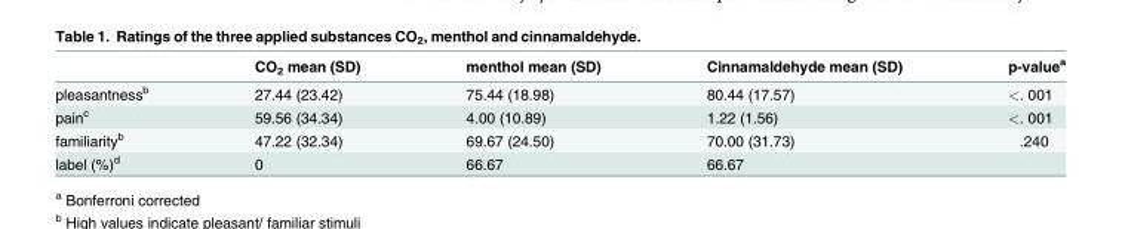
<table><thead><tr><td></td><td>CO<sub>2</sub> mean (SD)</td><td>menthol mean (SD)</td><td>Cinnamaldehyde mean (SD)</td><td>p-value<sup>a</sup></td></tr></thead><tbody><tr><td>pleasantness<sup>b</sup></td><td>27.44 (23.42)</td><td>75.44 (18.98)</td><td>80.44 (17.57)</td><td>&lt;. 001</td></tr><tr><td>pain<sup>c</sup></td><td>59.56 (34.34)</td><td>4.00 (10.89)</td><td>1.22 (1.56)</td><td>&lt;. 001</td></tr><tr><td>familiarity<sup>b</sup></td><td>47.22 (32.34)</td><td>69.67 (24.50)</td><td>70.00 (31.73)</td><td>.240</td></tr><tr><td>label (%)<sup>d</sup></td><td>0</td><td>66.67</td><td>66.67</td><td></td></tr></tbody></table>